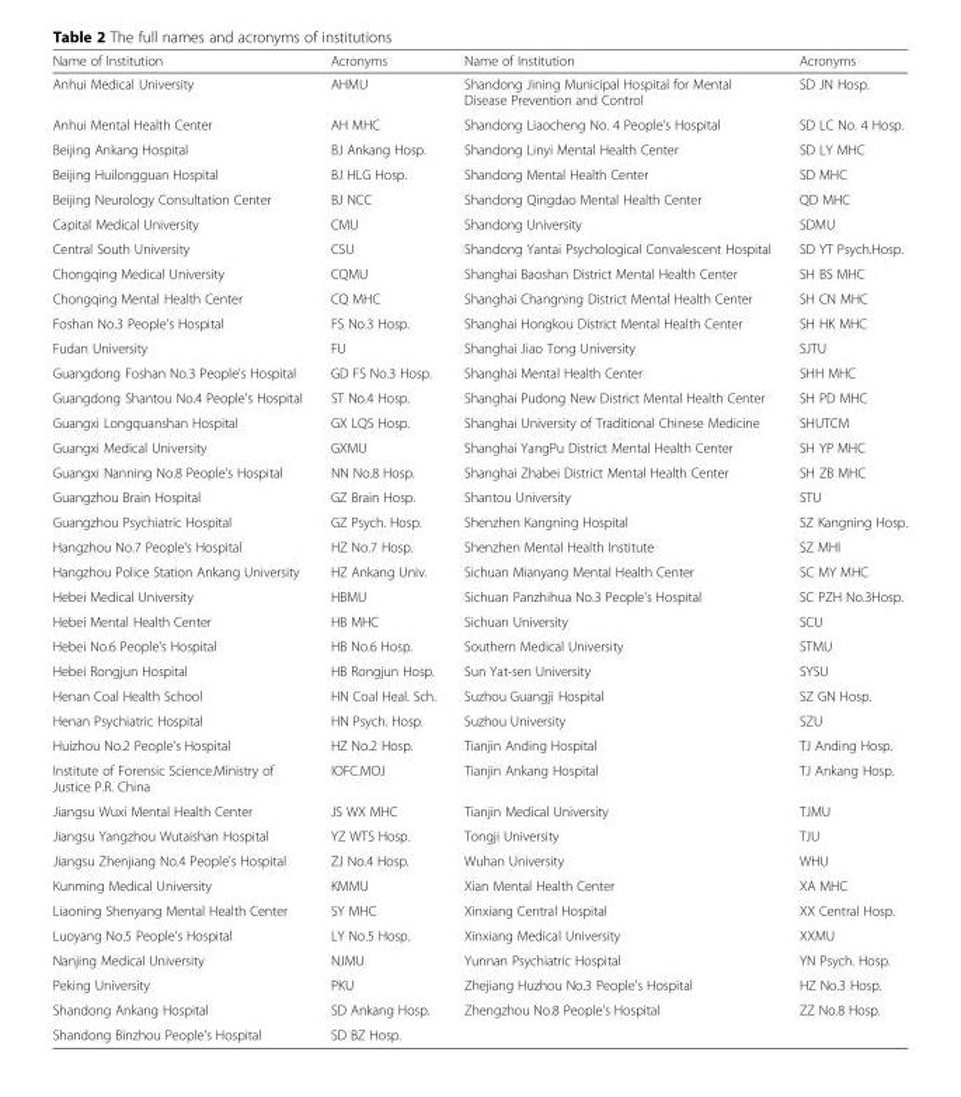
<table><thead><tr><td>Name of Institution</td><td>Acronyms</td><td>Name of Institution</td><td>Acronyms</td></tr></thead><tbody><tr><td>Anhui Medical University</td><td>AHMU</td><td>Shandong Jining Municipal Hospital for Mental Disease Prevention and Control</td><td>SD JN Hosp.</td></tr><tr><td>Anhui Mental Health Center</td><td>AH MHC</td><td>Shandong Liaocheng No. 4 People&#x27;s Hospital</td><td>SD LC No. 4 Hosp.</td></tr><tr><td>Beijing Ankang Hospital</td><td>BJ Ankang Hosp.</td><td>Shandong Linyi Mental Health Center</td><td>SD LY MHC</td></tr><tr><td>Beijing Huilongguan Hospital</td><td>BJ HLG Hosp.</td><td>Shandong Mental Health Center</td><td>SD MHC</td></tr><tr><td>Beijing Neurology Consultation Center</td><td>BJ NCC</td><td>Shandong Qingdao Mental Health Center</td><td>QD MHC</td></tr><tr><td>Capital Medical University</td><td>CMU</td><td>Shandong University</td><td>SDMU</td></tr><tr><td>Central South University</td><td>CSU</td><td>Shandong Yantai Psychological Convalescent Hospital</td><td>SD YT Psych.Hosp.</td></tr><tr><td>Chongqing Medical University</td><td>CQMU</td><td>Shanghai Baoshan District Mental Health Center</td><td>SH BS MHC</td></tr><tr><td>Chongqing Mental Health Center</td><td>CQ MHC</td><td>Shanghai Changning District Mental Health Center</td><td>SH CN MHC</td></tr><tr><td>Foshan No.3 People&#x27;s Hospital</td><td>FS No.3 Hosp.</td><td>Shanghai Hongkou District Mental Health Center</td><td>SH HK MHC</td></tr><tr><td>Fudan University</td><td>FU</td><td>Shanghai Jiao Tong University</td><td>SJTU</td></tr><tr><td>Guangdong Foshan No.3 People&#x27;s Hospital</td><td>GD FS No.3 Hosp.</td><td>Shanghai Mental Health Center</td><td>SHH MHC</td></tr><tr><td>Guangdong Shantou No.4 People&#x27;s Hospital</td><td>ST No.4 Hosp.</td><td>Shanghai Pudong New District Mental Health Center</td><td>SH PD MHC</td></tr><tr><td>Guangxi Longquanshan Hospital</td><td>GX LQS Hosp.</td><td>Shanghai University of Traditional Chinese Medicine</td><td>SHUTCM</td></tr><tr><td>Guangxi Medical University</td><td>GXMU</td><td>Shanghai YangPu District Mental Health Center</td><td>SH YP MHC</td></tr><tr><td>Guangxi Nanning No.8 People&#x27;s Hospital</td><td>NN No.8 Hosp.</td><td>Shanghai Zhabei District Mental Health Center</td><td>SH ZB MHC</td></tr><tr><td>Guangzhou Brain Hospital</td><td>GZ Brain Hosp.</td><td>Shantou University</td><td>STU</td></tr><tr><td>Guangzhou Psychiatric Hospital</td><td>GZ Psych. Hosp.</td><td>Shenzhen Kangning Hospital</td><td>SZ Kangning Hosp.</td></tr><tr><td>Hangzhou No.7 People&#x27;s Hospital</td><td>HZ No.7 Hosp.</td><td>Shenzhen Mental Health Institute</td><td>SZ MHI</td></tr><tr><td>Hangzhou Police Station Ankang University</td><td>HZ Ankang Univ.</td><td>Sichuan Mianyang Mental Health Center</td><td>SC MY MHC</td></tr><tr><td>Hebei Medical University</td><td>HBMU</td><td>Sichuan Panzhihua No.3 People&#x27;s Hospital</td><td>SC PZH No.3Hosp.</td></tr><tr><td>Hebei Mental Health Center</td><td>HB MHC</td><td>Sichuan University</td><td>SCU</td></tr><tr><td>Hebei No.6 People&#x27;s Hospital</td><td>HB No.6 Hosp.</td><td>Southern Medical University</td><td>STMU</td></tr><tr><td>Hebei Rongjun Hospital</td><td>HB Rongjun Hosp.</td><td>Sun Yat-sen University</td><td>SYSU</td></tr><tr><td>Henan Coal Health School</td><td>HN Coal Heal. Sch.</td><td>Suzhou Guangji Hospital</td><td>SZ GN Hosp.</td></tr><tr><td>Henan Psychiatric Hospital</td><td>HN Psych. Hosp.</td><td>Suzhou University</td><td>SZU</td></tr><tr><td>Huizhou No.2 People&#x27;s Hospital</td><td>HZ No.2 Hosp.</td><td>Tianjin Anding Hospital</td><td>TJ Anding Hosp.</td></tr><tr><td>Institute of Forensic Science.Ministry of Justice P.R. China</td><td>IOFC.MOJ</td><td>Tianjin Ankang Hospital</td><td>TJ Ankang Hosp.</td></tr><tr><td>Jiangsu Wuxi Mental Health Center</td><td>JS WX MHC</td><td>Tianjin Medical University</td><td>TJMU</td></tr><tr><td>Jiangsu Yangzhou Wutaishan Hospital</td><td>YZ WTS Hosp.</td><td>Tongji University</td><td>TJU</td></tr><tr><td>Jiangsu Zhenjiang No.4 People&#x27;s Hospital</td><td>ZJ No.4 Hosp.</td><td>Wuhan University</td><td>WHU</td></tr><tr><td>Kunming Medical University</td><td>KMMU</td><td>Xian Mental Health Center</td><td>XA MHC</td></tr><tr><td>Liaoning Shenyang Mental Health Center</td><td>SY MHC</td><td>Xinxiang Central Hospital</td><td>XX Central Hosp.</td></tr><tr><td>Luoyang No.5 People&#x27;s Hospital</td><td>LY No.5 Hosp.</td><td>Xinxiang Medical University</td><td>XXMU</td></tr><tr><td>Nanjing Medical University</td><td>NJMU</td><td>Yunnan Psychiatric Hospital</td><td>YN Psych. Hosp.</td></tr><tr><td>Peking University</td><td>PKU</td><td>Zhejiang Huzhou No.3 People&#x27;s Hospital</td><td>HZ No.3 Hosp.</td></tr><tr><td>Shandong Ankang Hospital</td><td>SD Ankang Hosp.</td><td>Zhengzhou No.8 People&#x27;s Hospital</td><td>ZZ No.8 Hosp.</td></tr><tr><td>Shandong Binzhou People&#x27;s Hospital</td><td>SD BZ Hosp.</td><td></td><td></td></tr></tbody></table>